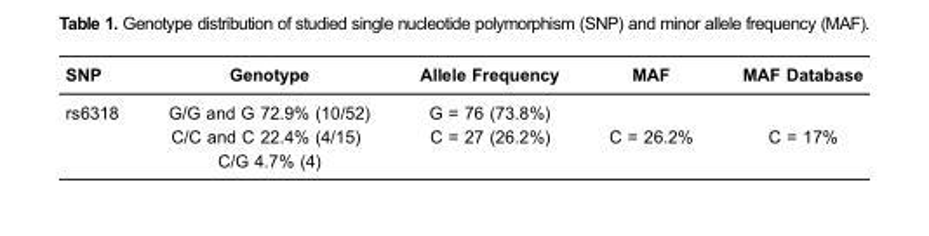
<table><thead><tr><td>SNP</td><td>Genotype</td><td>Allele Frequency</td><td>MAF</td><td>MAF Database</td></tr></thead><tbody><tr><td rowspan="3">rs6318</td><td>G/G and G 72.9% (10/52)</td><td>G = 76 (73.8%)</td><td></td><td></td></tr><tr><td>C/C and C 22.4% (4/15)</td><td>C = 27 (26.2%)</td><td>C = 26.2%</td><td>C = 17%</td></tr><tr><td>C/G 4.7% (4)</td><td></td><td></td><td></td></tr></tbody></table>